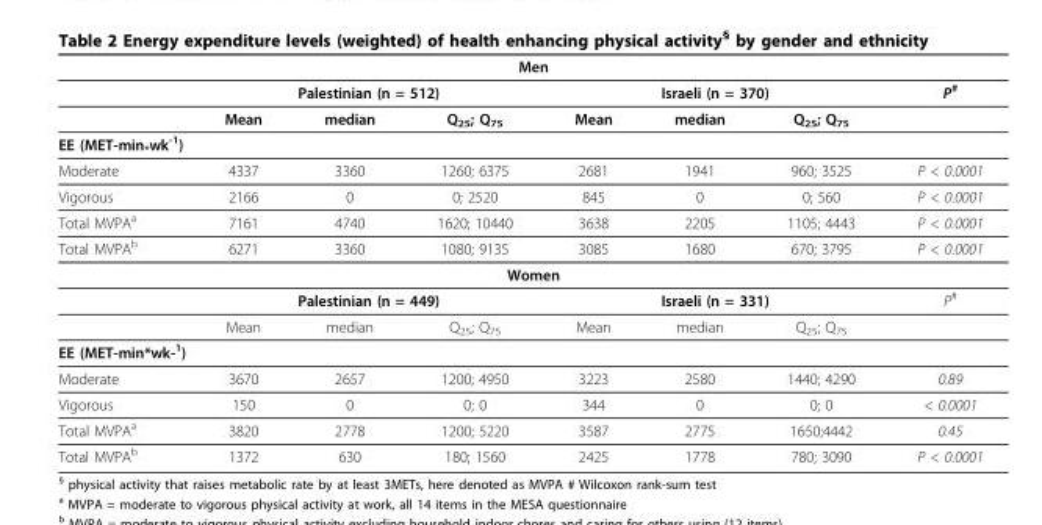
<table><thead><tr><td colspan="8">Men</td></tr><tr><td rowspan="2"></td><td colspan="3">Palestinian (n = 512)</td><td colspan="3">Israeli (n = 370)</td><td rowspan="2">P<sup>#</sup></td></tr><tr><td>Mean</td><td>median</td><td>Q<sub>25</sub>; Q<sub>75</sub></td><td>Mean</td><td>median</td><td>Q<sub>25</sub>; Q<sub>75</sub></td></tr></thead><tbody><tr><td colspan="8">EE (MET-min<sub>*</sub>wk<sup>-1</sup>)</td></tr><tr><td>Moderate</td><td>4337</td><td>3360</td><td>1260; 6375</td><td>2681</td><td>1941</td><td>960; 3525</td><td>P &lt; 0.0001</td></tr><tr><td>Vigorous</td><td>2166</td><td>0</td><td>0; 2520</td><td>845</td><td>0</td><td>0; 560</td><td>P &lt; 0.0001</td></tr><tr><td>Total MVPA<sup>a</sup></td><td>7161</td><td>4740</td><td>1620; 10440</td><td>3638</td><td>2205</td><td>1105; 4443</td><td>P &lt; 0.0001</td></tr><tr><td>Total MVPA<sup>b</sup></td><td>6271</td><td>3360</td><td>1080; 9135</td><td>3085</td><td>1680</td><td>670; 3795</td><td>P &lt; 0.0001</td></tr><tr><td colspan="8">Women</td></tr><tr><td></td><td colspan="3">Palestinian (n = 449)</td><td colspan="3">Israeli (n = 331)</td><td>P<sup>#</sup></td></tr><tr><td></td><td>Mean</td><td>median</td><td>Q<sub>25</sub>; Q<sub>75</sub></td><td>Mean</td><td>median</td><td>Q<sub>25</sub>; Q<sub>75</sub></td><td></td></tr><tr><td colspan="8">EE (MET-min*wk-<sup>1</sup>)</td></tr><tr><td>Moderate</td><td>3670</td><td>2657</td><td>1200; 4950</td><td>3223</td><td>2580</td><td>1440; 4290</td><td>0.89</td></tr><tr><td>Vigorous</td><td>150</td><td>0</td><td>0; 0</td><td>344</td><td>0</td><td>0; 0</td><td>&lt; 0.0001</td></tr><tr><td>Total MVPA<sup>a</sup></td><td>3820</td><td>2778</td><td>1200; 5220</td><td>3587</td><td>2775</td><td>1650;4442</td><td>0.45</td></tr><tr><td>Total MVPA<sup>b</sup></td><td>1372</td><td>630</td><td>180; 1560</td><td>2425</td><td>1778</td><td>780; 3090</td><td>P &lt; 0.0001</td></tr></tbody></table>